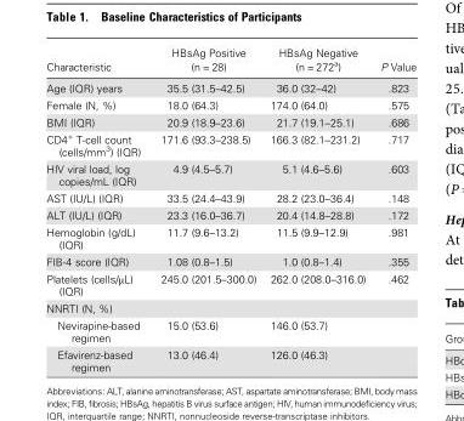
<table><thead><tr><td>Characteristic</td><td>HBsAg Positive (n = 28)</td><td>HBsAg Negative (n = 272<sup>a</sup>)</td><td>P Value</td></tr></thead><tbody><tr><td>Age (IQR) years</td><td>35.5 (31.5–42.5)</td><td>36.0 (32–42)</td><td>.823</td></tr><tr><td>Female (N, %)</td><td>18.0 (64.3)</td><td>174.0 (64.0)</td><td>.575</td></tr><tr><td>BMI (IQR)</td><td>20.9 (18.9–23.6)</td><td>21.7 (19.1–25.1)</td><td>.686</td></tr><tr><td>CD4<sup>+</sup> T-cell count (cells/mm<sup>3</sup>) (IQR)</td><td>171.6 (93.3–238.5)</td><td>166.3 (82.1–231.2)</td><td>.717</td></tr><tr><td>HIV viral load, log copies/mL (IQR)</td><td>4.9 (4.5–5.7)</td><td>5.1 (4.6–5.6)</td><td>.603</td></tr><tr><td>AST (IU/L) (IQR)</td><td>33.5 (24.4–43.9)</td><td>28.2 (23.0–36.4)</td><td>.148</td></tr><tr><td>ALT (IU/L) (IQR)</td><td>23.3 (16.0–36.7)</td><td>20.4 (14.8–28.8)</td><td>.172</td></tr><tr><td>Hemoglobin (g/dL) (IQR)</td><td>11.7 (9.6–13.2)</td><td>11.5 (9.9–12.9)</td><td>.981</td></tr><tr><td>FIB-4 score (IQR)</td><td>1.08 (0.8–1.5)</td><td>1.0 (0.8–1.4)</td><td>.355</td></tr><tr><td>Platelets (cells/μL) (IQR)</td><td>245.0 (201.5–300.0)</td><td>262.0 (208.0–316.0)</td><td>.462</td></tr><tr><td colspan="4">NNRTI (N, %)</td></tr><tr><td>Nevirapine-based regimen</td><td>15.0 (53.6)</td><td>146.0 (53.7)</td><td></td></tr><tr><td>Efavirenz-based regimen</td><td>13.0 (46.4)</td><td>126.0 (46.3)</td><td></td></tr></tbody></table>